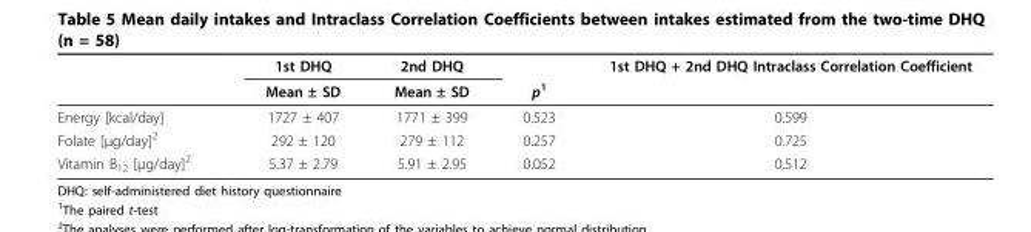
<table><thead><tr><td rowspan="2"></td><td rowspan="2">1st DHQ Mean ± SD</td><td rowspan="2">2nd DHQ Mean ± SD</td><td rowspan="2">p<sup>1</sup></td><td rowspan="2">1st DHQ + 2nd DHQ Intraclass Correlation Coefficient</td></tr><tr></tr></thead><tbody><tr><td>Energy [kcal/day]</td><td>1727 ± 407</td><td>1771 ± 399</td><td>0.523</td><td>0.599</td></tr><tr><td>Folate [μg/day]<sup>2</sup></td><td>292 ± 120</td><td>279 ± 112</td><td>0.257</td><td>0.725</td></tr><tr><td>Vitamin B<sub>12</sub> [μg/day]<sup>2</sup></td><td>5.37 ± 2.79</td><td>5.91 ± 2.95</td><td>0.052</td><td>0.512</td></tr></tbody></table>